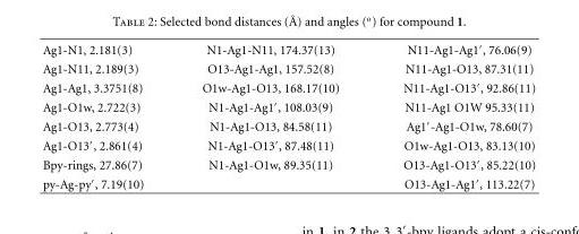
<table><tbody><tr><td>Ag1-N1, 2.181(3)</td><td>N1-Ag1-N11, 174.37(13)</td><td>N11-Ag1-Ag1′, 76.06(9)</td></tr><tr><td>Ag1-N11, 2.189(3)</td><td>O13-Ag1-Ag1, 157.52(8)</td><td>N11-Ag1-O13, 87.31(11)</td></tr><tr><td>Ag1-Ag1, 3.3751(8)</td><td>O1w-Ag1-O13, 168.17(10)</td><td>N11-Ag1-O13′, 92.86(11)</td></tr><tr><td>Ag1-O1w, 2.722(3)</td><td>N1-Ag1-Ag1′, 108.03(9)</td><td>N11-Ag1 O1W 95.33(11)</td></tr><tr><td>Ag1-O13, 2.773(4)</td><td>N1-Ag1-O13, 84.58(11)</td><td>Ag1′-Ag1-O1w, 78.60(7)</td></tr><tr><td>Ag1-O13′, 2.861(4)</td><td>N1-Ag1-O13′, 87.48(11)</td><td>O1w-Ag1-O13, 83.13(10)</td></tr><tr><td>Bpy-rings, 27.86(7)</td><td>N1-Ag1-O1w, 89.35(11)</td><td>O13-Ag1-O13′, 85.22(10)</td></tr><tr><td>py-Ag-py′, 7.19(10)</td><td></td><td>O13-Ag1-Ag1′, 113.22(7)</td></tr></tbody></table>